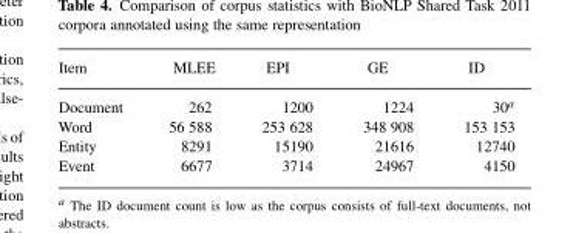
<table><thead><tr><td>Item</td><td>MLEE</td><td>EPI</td><td>GE</td><td>ID</td></tr></thead><tbody><tr><td>Document</td><td>262</td><td>1200</td><td>1224</td><td>30<sup>a</sup></td></tr><tr><td>Word</td><td>56 588</td><td>253 628</td><td>348 908</td><td>153 153</td></tr><tr><td>Entity</td><td>8291</td><td>15190</td><td>21616</td><td>12740</td></tr><tr><td>Event</td><td>6677</td><td>3714</td><td>24967</td><td>4150</td></tr></tbody></table>